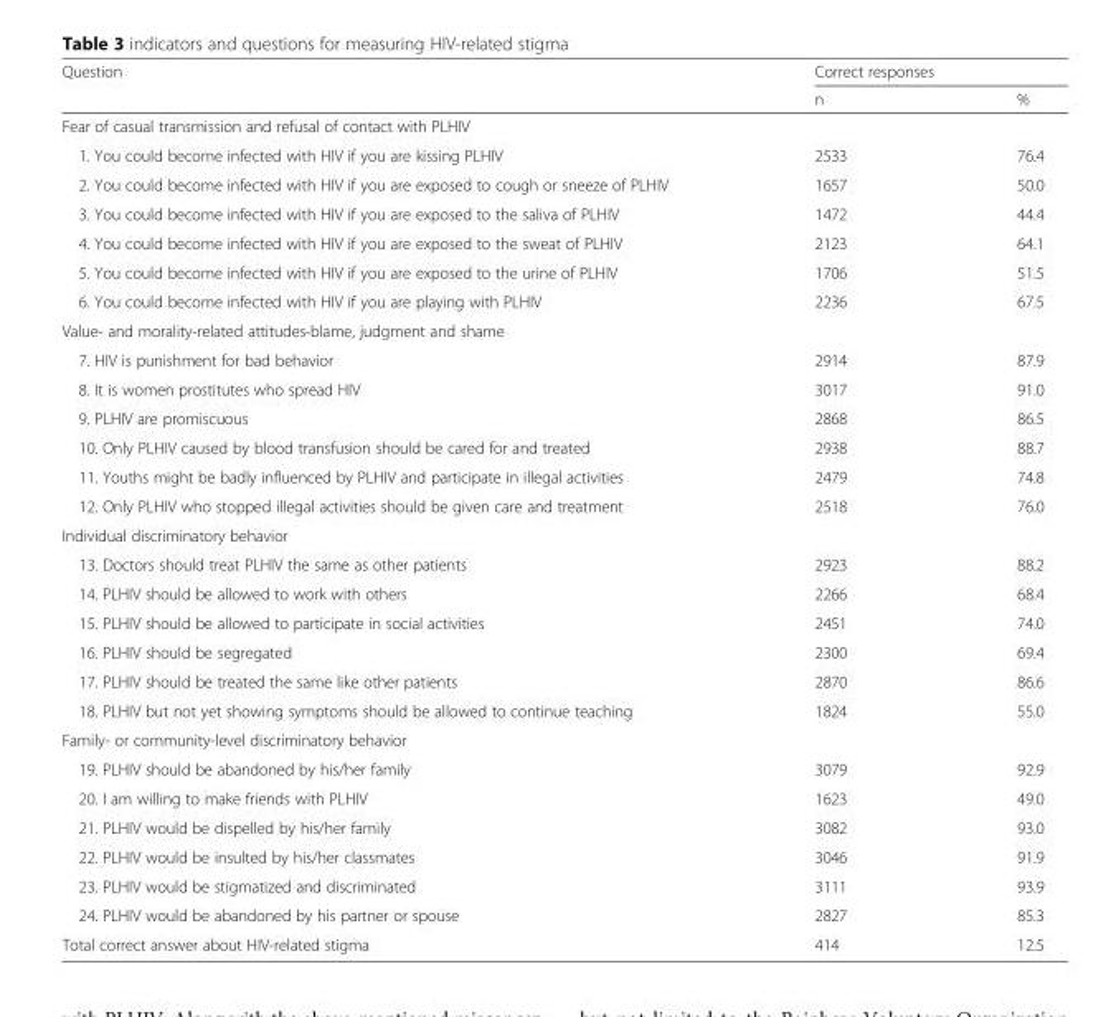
<table><thead><tr><td rowspan="2">Question</td><td colspan="2">Correct responses</td></tr><tr><td>n</td><td>%</td></tr></thead><tbody><tr><td colspan="3">Fear of casual transmission and refusal of contact with PLHIV</td></tr><tr><td>1. You could become infected with HIV if you are kissing PLHIV</td><td>2533</td><td>76.4</td></tr><tr><td>2. You could become infected with HIV if you are exposed to cough or sneeze of PLHIV</td><td>1657</td><td>50.0</td></tr><tr><td>3. You could become infected with HIV if you are exposed to the saliva of PLHIV</td><td>1472</td><td>44.4</td></tr><tr><td>4. You could become infected with HIV if you are exposed to the sweat of PLHIV</td><td>2123</td><td>64.1</td></tr><tr><td>5. You could become infected with HIV if you are exposed to the urine of PLHIV</td><td>1706</td><td>51.5</td></tr><tr><td>6. You could become infected with HIV if you are playing with PLHIV</td><td>2236</td><td>67.5</td></tr><tr><td colspan="3">Value- and morality-related attitudes-blame, judgment and shame</td></tr><tr><td>7. HIV is punishment for bad behavior</td><td>2914</td><td>87.9</td></tr><tr><td>8. It is women prostitutes who spread HIV</td><td>3017</td><td>91.0</td></tr><tr><td>9. PLHIV are promiscuous</td><td>2868</td><td>86.5</td></tr><tr><td>10. Only PLHIV caused by blood transfusion should be cared for and treated</td><td>2938</td><td>88.7</td></tr><tr><td>11. Youths might be badly influenced by PLHIV and participate in illegal activities</td><td>2479</td><td>74.8</td></tr><tr><td>12. Only PLHIV who stopped illegal activities should be given care and treatment</td><td>2518</td><td>76.0</td></tr><tr><td colspan="3">Individual discriminatory behavior</td></tr><tr><td>13. Doctors should treat PLHIV the same as other patients</td><td>2923</td><td>88.2</td></tr><tr><td>14. PLHIV should be allowed to work with others</td><td>2266</td><td>68.4</td></tr><tr><td>15. PLHIV should be allowed to participate in social activities</td><td>2451</td><td>74.0</td></tr><tr><td>16. PLHIV should be segregated</td><td>2300</td><td>69.4</td></tr><tr><td>17. PLHIV should be treated the same like other patients</td><td>2870</td><td>86.6</td></tr><tr><td>18. PLHIV but not yet showing symptoms should be allowed to continue teaching</td><td>1824</td><td>55.0</td></tr><tr><td colspan="3">Family- or community-level discriminatory behavior</td></tr><tr><td>19. PLHIV should be abandoned by his/her family</td><td>3079</td><td>92.9</td></tr><tr><td>20. I am willing to make friends with PLHIV</td><td>1623</td><td>49.0</td></tr><tr><td>21. PLHIV would be dispelled by his/her family</td><td>3082</td><td>93.0</td></tr><tr><td>22. PLHIV would be insulted by his/her classmates</td><td>3046</td><td>91.9</td></tr><tr><td>23. PLHIV would be stigmatized and discriminated</td><td>3111</td><td>93.9</td></tr><tr><td>24. PLHIV would be abandoned by his partner or spouse</td><td>2827</td><td>85.3</td></tr><tr><td>Total correct answer about HIV-related stigma</td><td>414</td><td>12.5</td></tr></tbody></table>